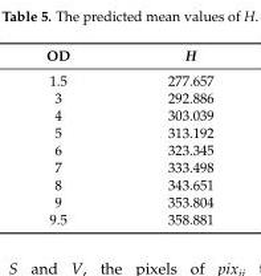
<table><thead><tr><td>OD</td><td>H</td></tr></thead><tbody><tr><td>1.5</td><td>277.657</td></tr><tr><td>3</td><td>292.886</td></tr><tr><td>4</td><td>303.039</td></tr><tr><td>5</td><td>313.192</td></tr><tr><td>6</td><td>323.345</td></tr><tr><td>7</td><td>333.498</td></tr><tr><td>8</td><td>343.651</td></tr><tr><td>9</td><td>353.804</td></tr><tr><td>9.5</td><td>358.881</td></tr></tbody></table>